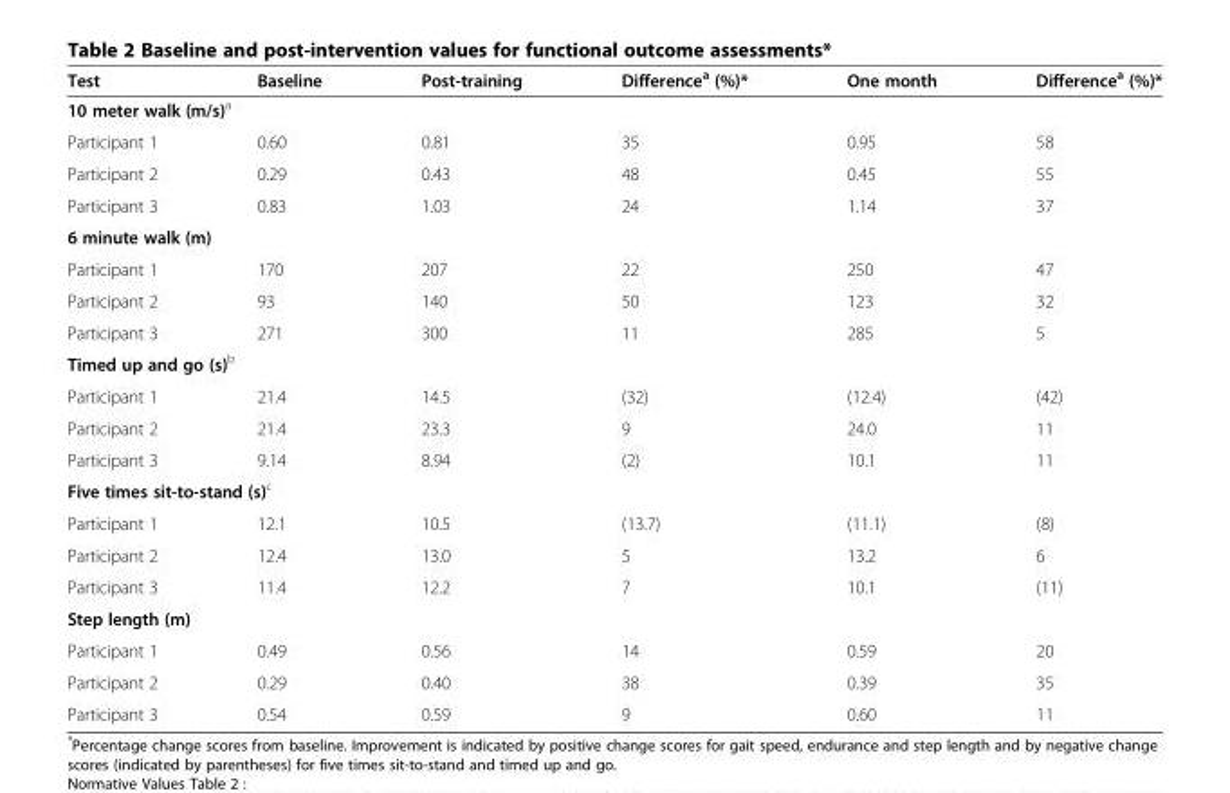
<table><thead><tr><td>Test</td><td>Baseline</td><td>Post-training</td><td>Difference<sup>a</sup> (%)*</td><td>One month</td><td>Difference<sup>a</sup> (%)*</td></tr></thead><tbody><tr><td colspan="6">10 meter walk (m/s)<sup>a</sup></td></tr><tr><td>Participant 1</td><td>0.60</td><td>0.81</td><td>35</td><td>0.95</td><td>58</td></tr><tr><td>Participant 2</td><td>0.29</td><td>0.43</td><td>48</td><td>0.45</td><td>55</td></tr><tr><td>Participant 3</td><td>0.83</td><td>1.03</td><td>24</td><td>1.14</td><td>37</td></tr><tr><td colspan="6">6 minute walk (m)</td></tr><tr><td>Participant 1</td><td>170</td><td>207</td><td>22</td><td>250</td><td>47</td></tr><tr><td>Participant 2</td><td>93</td><td>140</td><td>50</td><td>123</td><td>32</td></tr><tr><td>Participant 3</td><td>271</td><td>300</td><td>11</td><td>285</td><td>5</td></tr><tr><td colspan="6">Timed up and go (s)<sup>b</sup></td></tr><tr><td>Participant 1</td><td>21.4</td><td>14.5</td><td>(32)</td><td>(12.4)</td><td>(42)</td></tr><tr><td>Participant 2</td><td>21.4</td><td>23.3</td><td>9</td><td>24.0</td><td>11</td></tr><tr><td>Participant 3</td><td>9.14</td><td>8.94</td><td>(2)</td><td>10.1</td><td>11</td></tr><tr><td colspan="6">Five times sit-to-stand (s)<sup>c</sup></td></tr><tr><td>Participant 1</td><td>12.1</td><td>10.5</td><td>(13.7)</td><td>(11.1)</td><td>(8)</td></tr><tr><td>Participant 2</td><td>12.4</td><td>13.0</td><td>5</td><td>13.2</td><td>6</td></tr><tr><td>Participant 3</td><td>11.4</td><td>12.2</td><td>7</td><td>10.1</td><td>(11)</td></tr><tr><td colspan="6">Step length (m)</td></tr><tr><td>Participant 1</td><td>0.49</td><td>0.56</td><td>14</td><td>0.59</td><td>20</td></tr><tr><td>Participant 2</td><td>0.29</td><td>0.40</td><td>38</td><td>0.39</td><td>35</td></tr><tr><td>Participant 3</td><td>0.54</td><td>0.59</td><td>9</td><td>0.60</td><td>11</td></tr></tbody></table>